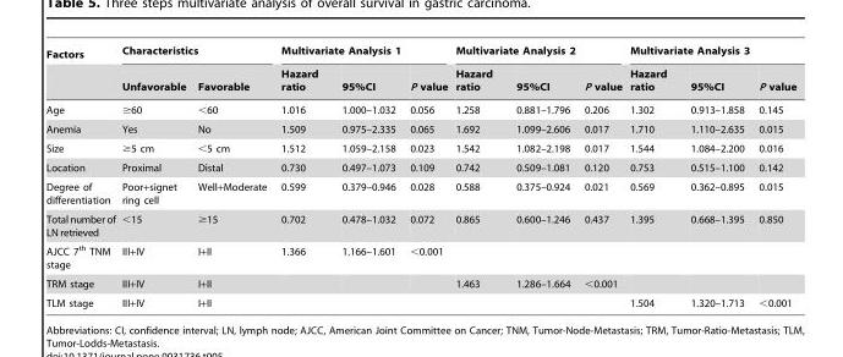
<table><thead><tr><td rowspan="2">Factors</td><td colspan="2">Characteristics</td><td colspan="3">Multivariate Analysis 1</td><td colspan="3">Multivariate Analysis 2</td><td colspan="3">Multivariate Analysis 3</td></tr><tr><td>Unfavorable</td><td>Favorable</td><td>Hazard ratio</td><td>95%CI</td><td>P value</td><td>Hazard ratio</td><td>95%CI</td><td>P value</td><td>Hazard ratio</td><td>95%CI</td><td>P value</td></tr></thead><tbody><tr><td>Age</td><td>≥60</td><td>&lt;60</td><td>1.016</td><td>1.000–1.032</td><td>0.056</td><td>1.258</td><td>0.881–1.796</td><td>0.206</td><td>1.302</td><td>0.913–1.858</td><td>0.145</td></tr><tr><td>Anemia</td><td>Yes</td><td>No</td><td>1.509</td><td>0.975–2.335</td><td>0.065</td><td>1.692</td><td>1.099–2.606</td><td>0.017</td><td>1.710</td><td>1.110–2.635</td><td>0.015</td></tr><tr><td>Size</td><td>≥5 cm</td><td>&lt;5 cm</td><td>1.512</td><td>1.059–2.158</td><td>0.023</td><td>1.542</td><td>1.082–2.198</td><td>0.017</td><td>1.544</td><td>1.084–2.200</td><td>0.016</td></tr><tr><td>Location</td><td>Proximal</td><td>Distal</td><td>0.730</td><td>0.497–1.073</td><td>0.109</td><td>0.742</td><td>0.509–1.081</td><td>0.120</td><td>0.753</td><td>0.515–1.100</td><td>0.142</td></tr><tr><td>Degree of differentiation</td><td>Poor+signet ring cell</td><td>Well+Moderate</td><td>0.599</td><td>0.379–0.946</td><td>0.028</td><td>0.588</td><td>0.375–0.924</td><td>0.021</td><td>0.569</td><td>0.362–0.895</td><td>0.015</td></tr><tr><td>Total number of LN retrieved</td><td>&lt;15</td><td>≥15</td><td>0.702</td><td>0.478–1.032</td><td>0.072</td><td>0.865</td><td>0.600–1.246</td><td>0.437</td><td>1.395</td><td>0.668–1.395</td><td>0.850</td></tr><tr><td>AJCC 7<sup>th</sup> TNM stage</td><td>III+IV</td><td>I+II</td><td>1.366</td><td>1.166–1.601</td><td>&lt;0.001</td><td></td><td></td><td></td><td></td><td></td><td></td></tr><tr><td>TRM stage</td><td>III+IV</td><td>I+II</td><td></td><td></td><td></td><td>1.463</td><td>1.286–1.664</td><td>&lt;0.001</td><td></td><td></td><td></td></tr><tr><td>TLM stage</td><td>III+IV</td><td>I+II</td><td></td><td></td><td></td><td></td><td></td><td></td><td>1.504</td><td>1.320–1.713</td><td>&lt;0.001</td></tr></tbody></table>